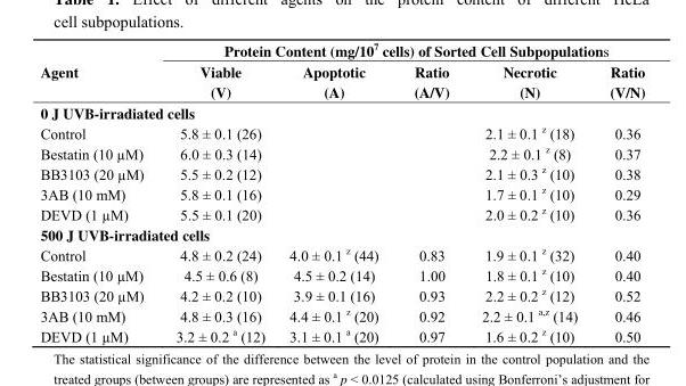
<table><thead><tr><td rowspan="2">Agent</td><td colspan="5">Protein Content (mg/10<sup>7</sup> cells) of Sorted Cell Subpopulations</td></tr><tr><td>Viable (V)</td><td>Apoptotic (A)</td><td>Ratio (A/V)</td><td>Necrotic (N)</td><td>Ratio (V/N)</td></tr></thead><tbody><tr><td colspan="6">0 J UVB-irradiated cells</td></tr><tr><td>Control</td><td>5.8 ± 0.1 (26)</td><td></td><td></td><td>2.1 ± 0.1 <sup>z</sup> (18)</td><td>0.36</td></tr><tr><td>Bestatin (10 µM)</td><td>6.0 ± 0.3 (14)</td><td></td><td></td><td>2.2 ± 0.1 <sup>z</sup> (8)</td><td>0.37</td></tr><tr><td>BB3103 (20 µM)</td><td>5.5 ± 0.2 (12)</td><td></td><td></td><td>2.1 ± 0.3 <sup>z</sup> (10)</td><td>0.38</td></tr><tr><td>3AB (10 mM)</td><td>5.8 ± 0.1 (16)</td><td></td><td></td><td>1.7 ± 0.1 <sup>z</sup> (10)</td><td>0.29</td></tr><tr><td>DEVD (1 µM)</td><td>5.5 ± 0.1 (20)</td><td></td><td></td><td>2.0 ± 0.2 <sup>z</sup> (10)</td><td>0.36</td></tr><tr><td colspan="6">500 J UVB-irradiated cells</td></tr><tr><td>Control</td><td>4.8 ± 0.2 (24)</td><td>4.0 ± 0.1 <sup>z</sup> (44)</td><td>0.83</td><td>1.9 ± 0.1 <sup>z</sup> (32)</td><td>0.40</td></tr><tr><td>Bestatin (10 µM)</td><td>4.5 ± 0.6 (8)</td><td>4.5 ± 0.2 (14)</td><td>1.00</td><td>1.8 ± 0.1 <sup>z</sup> (10)</td><td>0.40</td></tr><tr><td>BB3103 (20 µM)</td><td>4.2 ± 0.2 (10)</td><td>3.9 ± 0.1 (16)</td><td>0.93</td><td>2.2 ± 0.2 <sup>z</sup> (12)</td><td>0.52</td></tr><tr><td>3AB (10 mM)</td><td>4.8 ± 0.3 (16)</td><td>4.4 ± 0.1 <sup>z</sup> (20)</td><td>0.92</td><td>2.2 ± 0.1 <sup>a,z</sup> (14)</td><td>0.46</td></tr><tr><td>DEVD (1 µM)</td><td>3.2 ± 0.2 <sup>a</sup> (12)</td><td>3.1 ± 0.1 <sup>a</sup> (20)</td><td>0.97</td><td>1.6 ± 0.2 <sup>z</sup> (10)</td><td>0.50</td></tr></tbody></table>